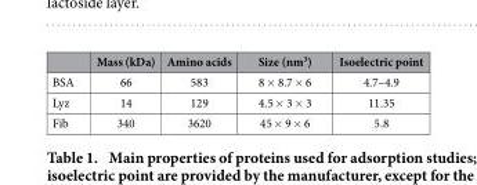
<table><thead><tr><td></td><td>Mass (kDa)</td><td>Amino acids</td><td>Size (nm<sup>3</sup>)</td><td>Isoelectric point</td></tr></thead><tbody><tr><td>BSA</td><td>66</td><td>583</td><td>8 × 8.7 × 6</td><td>4.7–4.9</td></tr><tr><td>Lyz</td><td>14</td><td>129</td><td>4.5 × 3 × 3</td><td>11.35</td></tr><tr><td>Fib</td><td>340</td><td>3620</td><td>45 × 9 × 6</td><td>5.8</td></tr></tbody></table>